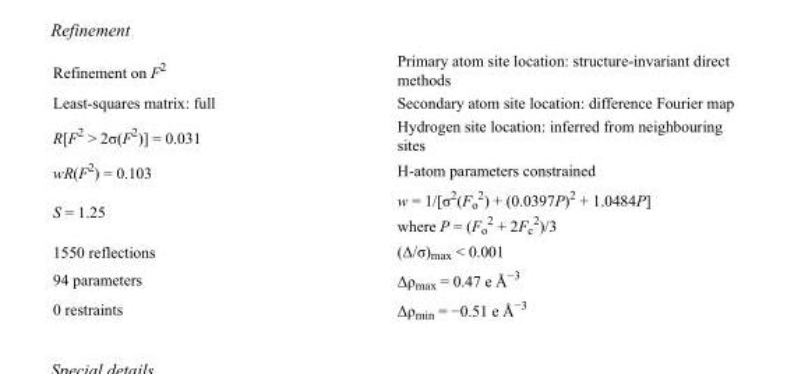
<table><tbody><tr><td>Refinement on F<sup>2</sup></td><td>Primary atom site location: structure-invariant direct methods</td></tr><tr><td>Least-squares matrix: full</td><td>Secondary atom site location: difference Fourier map</td></tr><tr><td>R[F<sup>2</sup> &gt; 2σ(F<sup>2</sup>)] = 0.031</td><td>Hydrogen site location: inferred from neighbouring sites</td></tr><tr><td>wR(F<sup>2</sup>) = 0.103</td><td>H-atom parameters constrained</td></tr><tr><td>S = 1.25</td><td>w = 1/[σ<sup>2</sup>(F<sub>o</sub> <sup>2</sup>) + (0.0397P)<sup>2</sup> + 1.0484P] where P = (F<sub>o</sub> <sup>2</sup> + 2F<sub>c</sub> <sup>2</sup>)/3</td></tr><tr><td>1550 reflections</td><td>(Δ/σ)<sub>max</sub> &lt; 0.001</td></tr><tr><td>94 parameters</td><td>Δρ<sub>max</sub> = 0.47 e Å<sup>−3</sup></td></tr><tr><td>0 restraints</td><td>Δρ<sub>min</sub> = −0.51 e Å<sup>−3</sup></td></tr></tbody></table>